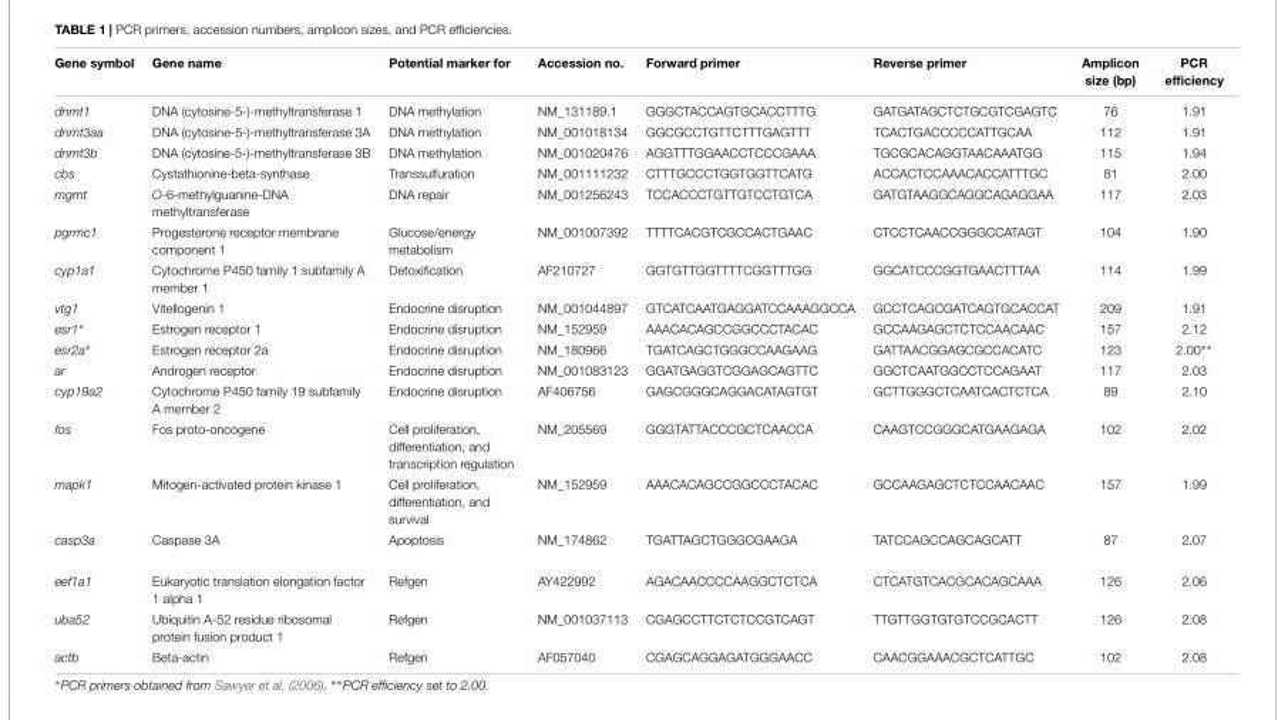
<table><thead><tr><td>Gene symbol</td><td>Gene name</td><td>Potential marker for</td><td>Accession no.</td><td>Forward primer</td><td>Reverse primer</td><td>Amplicon size (bp)</td><td>PCR efficiency</td></tr></thead><tbody><tr><td>dnmt1</td><td>DNA (cytosine-5-)-methyltransferase 1</td><td>DNA methylation</td><td>NM_131189.1</td><td>GGGCTACCAGTGCACCTTTG</td><td>GATGATAGCTCTGCGTCGAGTC</td><td>76</td><td>1.91</td></tr><tr><td>dnmt3aa</td><td>DNA (cytosine-5-)-methyltransferase 3A</td><td>DNA methylation</td><td>NM_001018134</td><td>GGCGCCTGTTCTTTGAGTTT</td><td>TCACTGACCCCCATTGCAA</td><td>112</td><td>1.91</td></tr><tr><td>dnmt3b</td><td>DNA (cytosine-5-)-methyltransferase 3B</td><td>DNA methylation</td><td>NM_001020476</td><td>AGGTTTGGAACCTCCCGAAA</td><td>TGCGCACAGGTAACAAATGG</td><td>115</td><td>1.94</td></tr><tr><td>cbs</td><td>Cystathionine-beta-synthase</td><td>Transsulfuration</td><td>NM_001111232</td><td>CTTTGCCCTGGTGGTTCATG</td><td>ACCACTCCAAACACCATTTGC</td><td>81</td><td>2.00</td></tr><tr><td>mgmt</td><td>O-6-methylguanine-DNA methyltransferase</td><td>DNA repair</td><td>NM_001256243</td><td>TCCACCCTGTTGTCCTGTCA</td><td>GATGTAAGGCAGGCAGAGGAA</td><td>117</td><td>2.03</td></tr><tr><td>pgrmc1</td><td>Progesterone receptor membrane component 1</td><td>Glucose/energy metabolism</td><td>NM_001007392</td><td>TTTTCACGTCGCCACTGAAC</td><td>CTCCTCAACCGGGCCATAGT</td><td>104</td><td>1.90</td></tr><tr><td>cyp1a1</td><td>Cytochrome P450 family 1 subfamily A member 1</td><td>Detoxification</td><td>AF210727</td><td>GGTGTTGGTTTTCGGTTTGG</td><td>GGCATCCCGGTGAACTTTAA</td><td>114</td><td>1.99</td></tr><tr><td>vtg1</td><td>Vitellogenin 1</td><td>Endocrine disruption</td><td>NM_001044897</td><td>GTCATCAATGAGGATCCAAAGGCCA</td><td>GCCTCAGCGATCAGTGCACCAT</td><td>209</td><td>1.91</td></tr><tr><td>esr1∗</td><td>Estrogen receptor 1</td><td>Endocrine disruption</td><td>NM_152959</td><td>AAACACAGCCGGCCCTACAC</td><td>GCCAAGAGCTCTCCAACAAC</td><td>157</td><td>2.12</td></tr><tr><td>esr2a∗</td><td>Estrogen receptor 2a</td><td>Endocrine disruption</td><td>NM_180966</td><td>TGATCAGCTGGGCCAAGAAG</td><td>GATTAACGGAGCGCCACATC</td><td>123</td><td>2.00∗∗</td></tr><tr><td>ar</td><td>Androgen receptor</td><td>Endocrine disruption</td><td>NM_001083123</td><td>GGATGAGGTCGGAGCAGTTC</td><td>GGCTCAATGGCCTCCAGAAT</td><td>117</td><td>2.03</td></tr><tr><td>cyp19a2</td><td>Cytochrome P450 family 19 subfamily A member 2</td><td>Endocrine disruption</td><td>AF406756</td><td>GAGCGGGCAGGACATAGTGT</td><td>GCTTGGGCTCAATCACTCTCA</td><td>89</td><td>2.10</td></tr><tr><td>fos</td><td>Fos proto-oncogene</td><td>Cell proliferation, differentiation, and transcription regulation</td><td>NM_205569</td><td>GGGTATTACCCGCTCAACCA</td><td>CAAGTCCGGGCATGAAGAGA</td><td>102</td><td>2.02</td></tr><tr><td>mapk1</td><td>Mitogen-activated protein kinase 1</td><td>Cell proliferation, differentiation, and survival</td><td>NM_152959</td><td>AAACACAGCCGGCCCTACAC</td><td>GCCAAGAGCTCTCCAACAAC</td><td>157</td><td>1.99</td></tr><tr><td>casp3a</td><td>Caspase 3A</td><td>Apoptosis</td><td>NM_174862</td><td>TGATTAGCTGGGCGAAGA</td><td>TATCCAGCCAGCAGCATT</td><td>87</td><td>2.07</td></tr><tr><td>eef1a1</td><td>Eukaryotic translation elongation factor 1 alpha 1</td><td>Refgen</td><td>AY422992</td><td>AGACAACCCCAAGGCTCTCA</td><td>CTCATGTCACGCACAGCAAA</td><td>126</td><td>2.06</td></tr><tr><td>uba52</td><td>Ubiquitin A-52 residue ribosomal protein fusion product 1</td><td>Refgen</td><td>NM_001037113</td><td>CGAGCCTTCTCTCCGTCAGT</td><td>TTGTTGGTGTGTCCGCACTT</td><td>126</td><td>2.08</td></tr><tr><td>actb</td><td>Beta-actin</td><td>Refgen</td><td>AF057040</td><td>CGAGCAGGAGATGGGAACC</td><td>CAACGGAAACGCTCATTGC</td><td>102</td><td>2.08</td></tr></tbody></table>